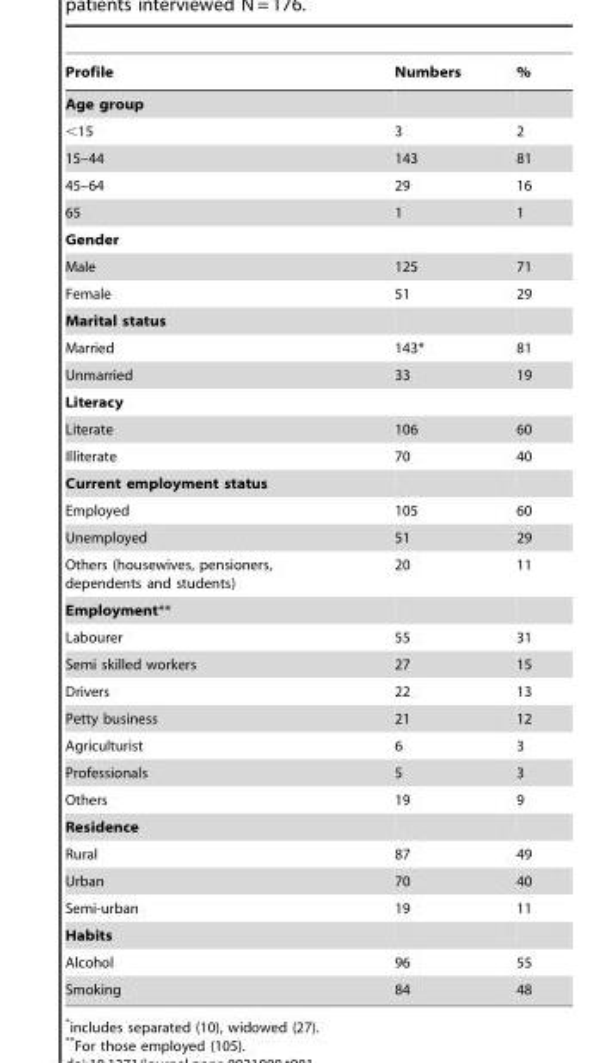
<table><thead><tr><td>Profile</td><td>Numbers</td><td>%</td></tr></thead><tbody><tr><td colspan="3">Age group</td></tr><tr><td>&lt;15</td><td>3</td><td>2</td></tr><tr><td>15–44</td><td>143</td><td>81</td></tr><tr><td>45–64</td><td>29</td><td>16</td></tr><tr><td>65</td><td>1</td><td>1</td></tr><tr><td colspan="3">Gender</td></tr><tr><td>Male</td><td>125</td><td>71</td></tr><tr><td>Female</td><td>51</td><td>29</td></tr><tr><td colspan="3">Marital status</td></tr><tr><td>Married</td><td>143*</td><td>81</td></tr><tr><td>Unmarried</td><td>33</td><td>19</td></tr><tr><td colspan="3">Literacy</td></tr><tr><td>Literate</td><td>106</td><td>60</td></tr><tr><td>Illiterate</td><td>70</td><td>40</td></tr><tr><td colspan="3">Current employment status</td></tr><tr><td>Employed</td><td>105</td><td>60</td></tr><tr><td>Unemployed</td><td>51</td><td>29</td></tr><tr><td>Others (housewives, pensioners, dependents and students)</td><td>20</td><td>11</td></tr><tr><td colspan="3">Employment**</td></tr><tr><td>Labourer</td><td>55</td><td>31</td></tr><tr><td>Semi skilled workers</td><td>27</td><td>15</td></tr><tr><td>Drivers</td><td>22</td><td>13</td></tr><tr><td>Petty business</td><td>21</td><td>12</td></tr><tr><td>Agriculturist</td><td>6</td><td>3</td></tr><tr><td>Professionals</td><td>5</td><td>3</td></tr><tr><td>Others</td><td>19</td><td>9</td></tr><tr><td colspan="3">Residence</td></tr><tr><td>Rural</td><td>87</td><td>49</td></tr><tr><td>Urban</td><td>70</td><td>40</td></tr><tr><td>Semi-urban</td><td>19</td><td>11</td></tr><tr><td colspan="3">Habits</td></tr><tr><td>Alcohol</td><td>96</td><td>55</td></tr><tr><td>Smoking</td><td>84</td><td>48</td></tr></tbody></table>